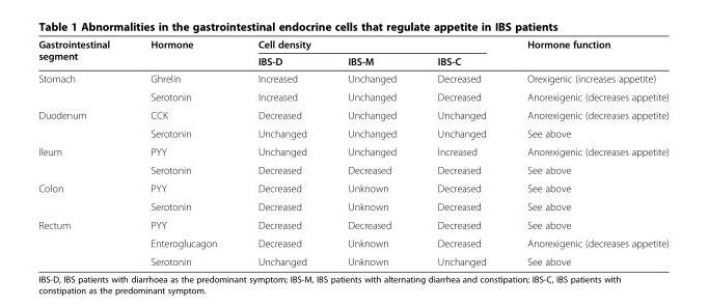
<table><thead><tr><td rowspan="2">Gastrointestinal segment</td><td rowspan="2">Hormone</td><td colspan="3">Cell density</td><td rowspan="2">Hormone function</td></tr><tr><td>IBS-D</td><td>IBS-M</td><td>IBS-C</td></tr></thead><tbody><tr><td rowspan="2">Stomach</td><td>Ghrelin</td><td>Increased</td><td>Unchanged</td><td>Decreased</td><td>Orexigenic (increases appetite)</td></tr><tr><td>Serotonin</td><td>Increased</td><td>Unchanged</td><td>Decreased</td><td>Anorexigenic (decreases appetite)</td></tr><tr><td rowspan="2">Duodenum</td><td>CCK</td><td>Decreased</td><td>Unchanged</td><td>Unchanged</td><td>Anorexigenic (decreases appetite)</td></tr><tr><td>Serotonin</td><td>Unchanged</td><td>Unchanged</td><td>Unchanged</td><td>See above</td></tr><tr><td rowspan="2">Ileum</td><td>PYY</td><td>Unchanged</td><td>Unchanged</td><td>Increased</td><td>Anorexigenic (decreases appetite)</td></tr><tr><td>Serotonin</td><td>Decreased</td><td>Decreased</td><td>Decreased</td><td>See above</td></tr><tr><td rowspan="2">Colon</td><td>PYY</td><td>Decreased</td><td>Unknown</td><td>Decreased</td><td>See above</td></tr><tr><td>Serotonin</td><td>Decreased</td><td>Unknown</td><td>Decreased</td><td>See above</td></tr><tr><td rowspan="3">Rectum</td><td>PYY</td><td>Decreased</td><td>Decreased</td><td>Decreased</td><td>See above</td></tr><tr><td>Enteroglucagon</td><td>Decreased</td><td>Unknown</td><td>Decreased</td><td>Anorexigenic (decreases appetite)</td></tr><tr><td>Serotonin</td><td>Unchanged</td><td>Unknown</td><td>Unchanged</td><td>See above</td></tr></tbody></table>